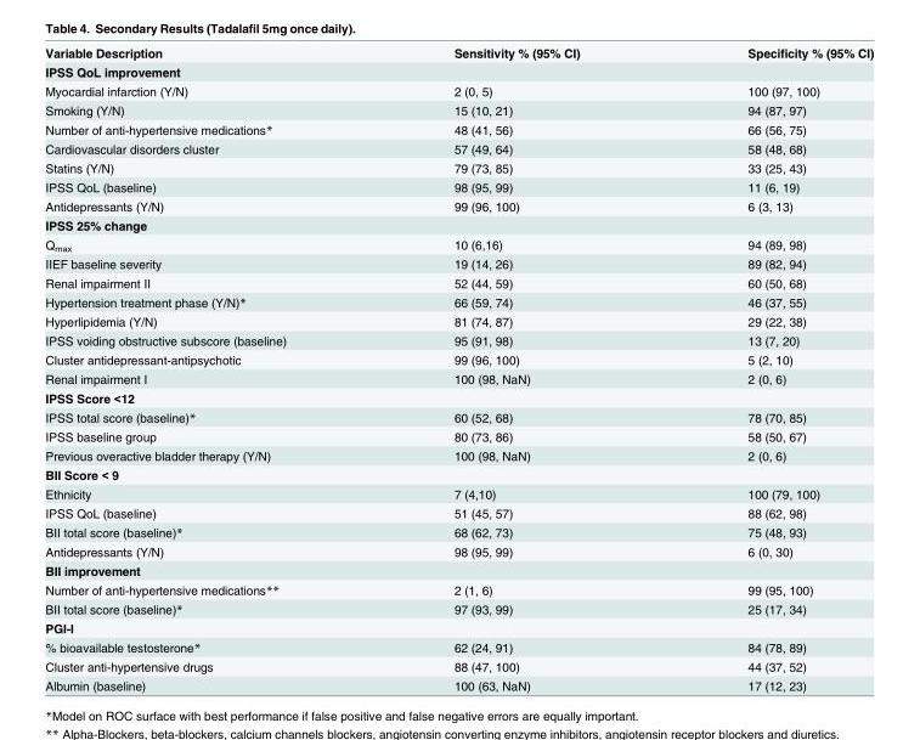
<table><tbody><tr><td>Variable Description</td><td>Sensitivity % (95% CI)</td><td>Specificity % (95% CI)</td></tr><tr><td colspan="3">IPSS QoL improvement</td></tr><tr><td>Myocardial infarction (Y/N)</td><td>2 (0, 5)</td><td>100 (97, 100)</td></tr><tr><td>Smoking (Y/N)</td><td>15 (10, 21)</td><td>94 (87, 97)</td></tr><tr><td>Number of anti-hypertensive medications*</td><td>48 (41, 56)</td><td>66 (56, 75)</td></tr><tr><td>Cardiovascular disorders cluster</td><td>57 (49, 64)</td><td>58 (48, 68)</td></tr><tr><td>Statins (Y/N)</td><td>79 (73, 85)</td><td>33 (25, 43)</td></tr><tr><td>IPSS QoL (baseline)</td><td>98 (95, 99)</td><td>11 (6, 19)</td></tr><tr><td>Antidepressants (Y/N)</td><td>99 (96, 100)</td><td>6 (3, 13)</td></tr><tr><td colspan="3">IPSS 25% change</td></tr><tr><td>Q<sub>max</sub></td><td>10 (6,16)</td><td>94 (89, 98)</td></tr><tr><td>IIEF baseline severity</td><td>19 (14, 26)</td><td>89 (82, 94)</td></tr><tr><td>Renal impairment II</td><td>52 (44, 59)</td><td>60 (50, 68)</td></tr><tr><td>Hypertension treatment phase (Y/N)*</td><td>66 (59, 74)</td><td>46 (37, 55)</td></tr><tr><td>Hyperlipidemia (Y/N)</td><td>81 (74, 87)</td><td>29 (22, 38)</td></tr><tr><td>IPSS voiding obstructive subscore (baseline)</td><td>95 (91, 98)</td><td>13 (7, 20)</td></tr><tr><td>Cluster antidepressant-antipsychotic</td><td>99 (96, 100)</td><td>5 (2, 10)</td></tr><tr><td>Renal impairment I</td><td>100 (98, NaN)</td><td>2 (0, 6)</td></tr><tr><td colspan="3">IPSS Score &lt;12</td></tr><tr><td>IPSS total score (baseline)*</td><td>60 (52, 68)</td><td>78 (70, 85)</td></tr><tr><td>IPSS baseline group</td><td>80 (73, 86)</td><td>58 (50, 67)</td></tr><tr><td>Previous overactive bladder therapy (Y/N)</td><td>100 (98, NaN)</td><td>2 (0, 6)</td></tr><tr><td colspan="3">BII Score &lt; 9</td></tr><tr><td>Ethnicity</td><td>7 (4,10)</td><td>100 (79, 100)</td></tr><tr><td>IPSS QoL (baseline)</td><td>51 (45, 57)</td><td>88 (62, 98)</td></tr><tr><td>BII total score (baseline)*</td><td>68 (62, 73)</td><td>75 (48, 93)</td></tr><tr><td>Antidepressants (Y/N)</td><td>98 (95, 99)</td><td>6 (0, 30)</td></tr><tr><td colspan="3">BII improvement</td></tr><tr><td>Number of anti-hypertensive medications**</td><td>2 (1, 6)</td><td>99 (95, 100)</td></tr><tr><td>BII total score (baseline)*</td><td>97 (93, 99)</td><td>25 (17, 34)</td></tr><tr><td colspan="3">PGI-I</td></tr><tr><td>% bioavailable testosterone*</td><td>62 (24, 91)</td><td>84 (78, 89)</td></tr><tr><td>Cluster anti-hypertensive drugs</td><td>88 (47, 100)</td><td>44 (37, 52)</td></tr><tr><td>Albumin (baseline)</td><td>100 (63, NaN)</td><td>17 (12, 23)</td></tr></tbody></table>